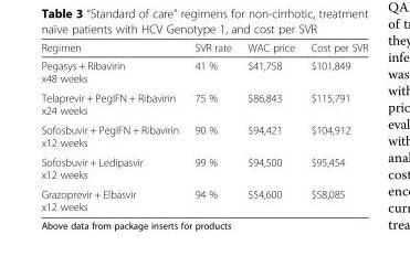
<table><thead><tr><td>Regimen</td><td>SVR rate</td><td>WAC price</td><td>Cost per SVR</td></tr></thead><tbody><tr><td>Pegasys + Ribavirin x48 weeks</td><td>41 %</td><td>$41,758</td><td>$101,849</td></tr><tr><td>Telaprevir + PegIFN + Ribavirin x24 weeks</td><td>75 %</td><td>$86,843</td><td>$115,791</td></tr><tr><td>Sofosbuvir + PegIFN + Ribavirin x12 weeks</td><td>90 %</td><td>$94,421</td><td>$104,912</td></tr><tr><td>Sofosbuvir + Ledipasvir x12 weeks</td><td>99 %</td><td>$94,500</td><td>$95,454</td></tr><tr><td>Grazoprevir + Elbasvir x12 weeks</td><td>94 %</td><td>$54,600</td><td>$58,085</td></tr></tbody></table>